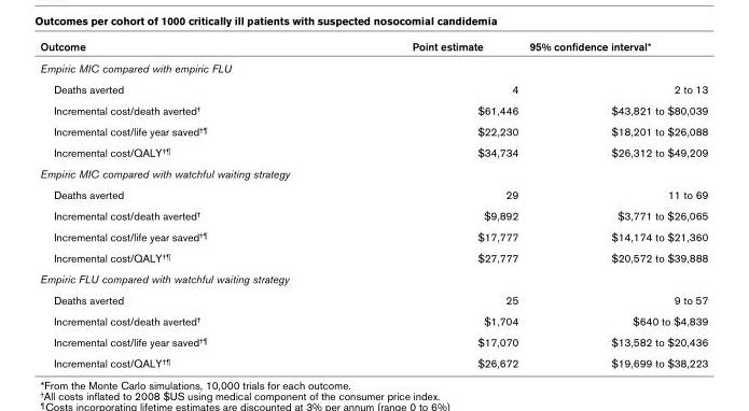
<table><thead><tr><td>Outcome</td><td>Point estimate</td><td>95% confidence interval*</td></tr></thead><tbody><tr><td colspan="3">Empiric MIC compared with empiric FLU</td></tr><tr><td>Deaths averted</td><td>4</td><td>2 to 13</td></tr><tr><td>Incremental cost/death averted<sup>†</sup></td><td>$61,446</td><td>$43,821 to $80,039</td></tr><tr><td>Incremental cost/life year saved<sup>†¶</sup></td><td>$22,230</td><td>$18,201 to $26,088</td></tr><tr><td>Incremental cost/QALY<sup>†¶</sup></td><td>$34,734</td><td>$26,312 to $49,209</td></tr><tr><td colspan="3">Empiric MIC compared with watchful waiting strategy</td></tr><tr><td>Deaths averted</td><td>29</td><td>11 to 69</td></tr><tr><td>Incremental cost/death averted<sup>†</sup></td><td>$9,892</td><td>$3,771 to $26,065</td></tr><tr><td>Incremental cost/life year saved<sup>†¶</sup></td><td>$17,777</td><td>$14,174 to $21,360</td></tr><tr><td>Incremental cost/QALY<sup>†¶</sup></td><td>$27,777</td><td>$20,572 to $39,888</td></tr><tr><td colspan="3">Empiric FLU compared with watchful waiting strategy</td></tr><tr><td>Deaths averted</td><td>25</td><td>9 to 57</td></tr><tr><td>Incremental cost/death averted<sup>†</sup></td><td>$1,704</td><td>$640 to $4,839</td></tr><tr><td>Incremental cost/life year saved<sup>†¶</sup></td><td>$17,070</td><td>$13,582 to $20,436</td></tr><tr><td>Incremental cost/QALY<sup>†¶</sup></td><td>$26,672</td><td>$19,699 to $38,223</td></tr></tbody></table>